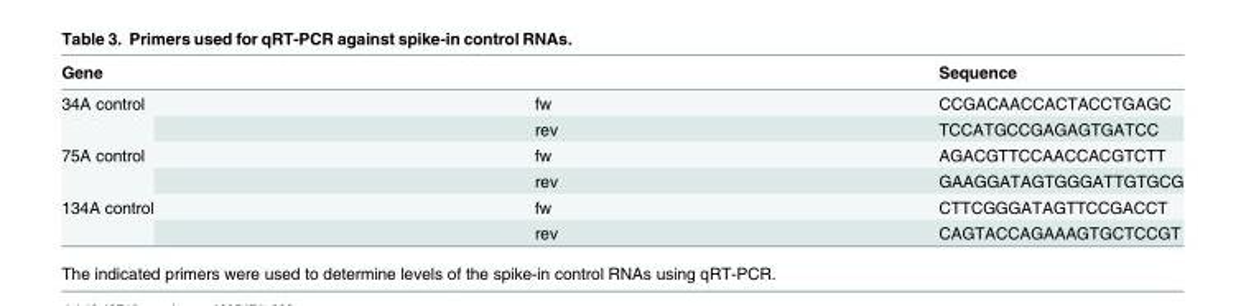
<table><thead><tr><td>Gene</td><td></td><td>Sequence</td></tr></thead><tbody><tr><td rowspan="2">34A control</td><td>fw</td><td>CCGACAACCACTACCTGAGC</td></tr><tr><td>rev</td><td>TCCATGCCGAGAGTGATCC</td></tr><tr><td rowspan="2">75A control</td><td>fw</td><td>AGACGTTCCAACCACGTCTT</td></tr><tr><td>rev</td><td>GAAGGATAGTGGGATTGTGCG</td></tr><tr><td rowspan="2">134A control</td><td>fw</td><td>CTTCGGGATAGTTCCGACCT</td></tr><tr><td>rev</td><td>CAGTACCAGAAAGTGCTCCGT</td></tr></tbody></table>